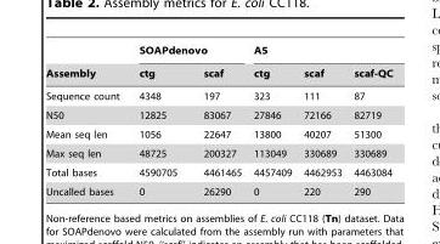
<table><thead><tr><td rowspan="2">Assembly</td><td colspan="2">SOAPdenovo</td><td colspan="3">A5</td></tr><tr><td>ctg</td><td>scaf</td><td>ctg</td><td>scaf</td><td>scaf-QC</td></tr></thead><tbody><tr><td>Sequence count</td><td>4348</td><td>197</td><td>323</td><td>111</td><td>87</td></tr><tr><td>N50</td><td>12825</td><td>83067</td><td>27846</td><td>72166</td><td>82719</td></tr><tr><td>Mean seq len</td><td>1056</td><td>22647</td><td>13800</td><td>40207</td><td>51300</td></tr><tr><td>Max seq len</td><td>48725</td><td>200327</td><td>113049</td><td>330689</td><td>330689</td></tr><tr><td>Total bases</td><td>4590705</td><td>4461465</td><td>4457409</td><td>4462953</td><td>4463084</td></tr><tr><td>Uncalled bases</td><td>0</td><td>26290</td><td>0</td><td>220</td><td>290</td></tr></tbody></table>